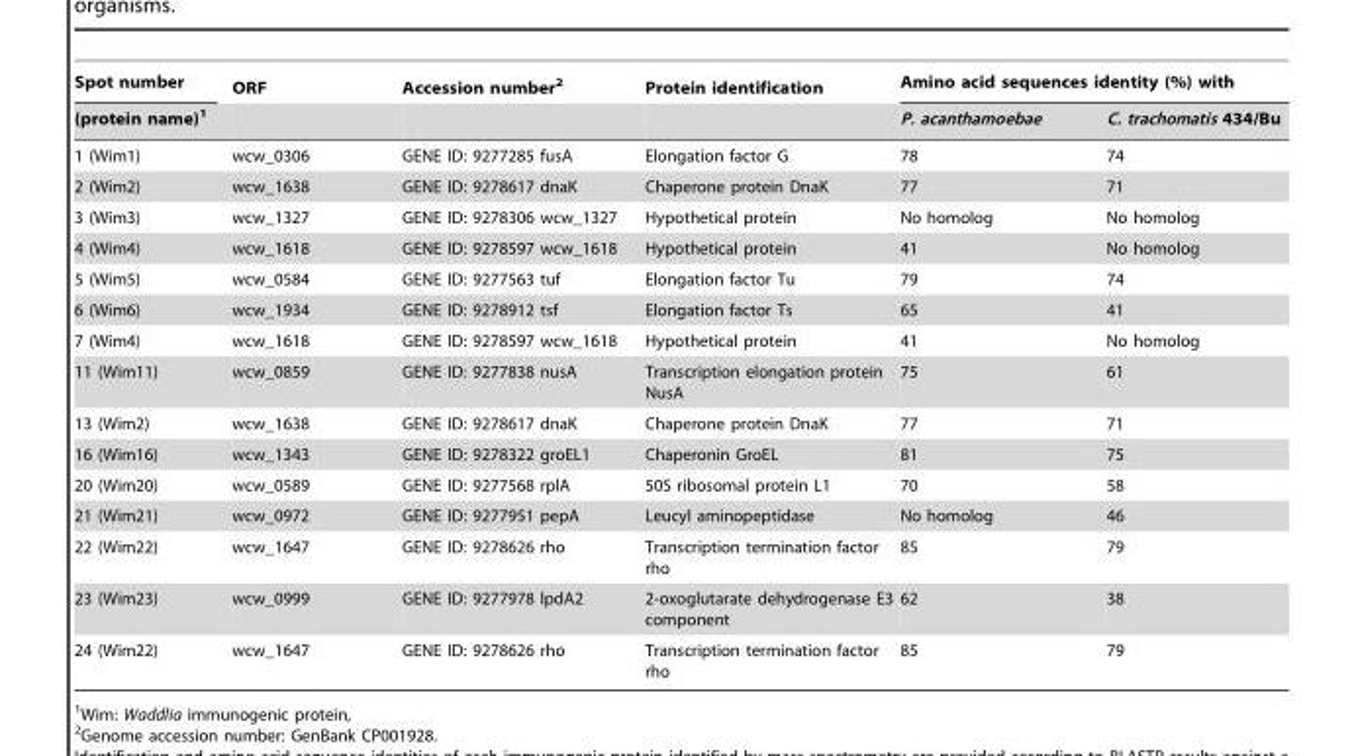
<table><thead><tr><td rowspan="2">Spot number (protein name)<sup>1</sup></td><td rowspan="2">ORF</td><td rowspan="2">Accession number<sup>2</sup></td><td rowspan="2">Protein identification</td><td colspan="2">Amino acid sequences identity (%) with</td></tr><tr><td>P. acanthamoebae</td><td>C. trachomatis 434/Bu</td></tr></thead><tbody><tr><td>1 (Wim1)</td><td>wcw_0306</td><td>GENE ID: 9277285 fusA</td><td>Elongation factor G</td><td>78</td><td>74</td></tr><tr><td>2 (Wim2)</td><td>wcw_1638</td><td>GENE ID: 9278617 dnaK</td><td>Chaperone protein DnaK</td><td>77</td><td>71</td></tr><tr><td>3 (Wim3)</td><td>wcw_1327</td><td>GENE ID: 9278306 wcw_1327</td><td>Hypothetical protein</td><td>No homolog</td><td>No homolog</td></tr><tr><td>4 (Wim4)</td><td>wcw_1618</td><td>GENE ID: 9278597 wcw_1618</td><td>Hypothetical protein</td><td>41</td><td>No homolog</td></tr><tr><td>5 (Wim5)</td><td>wcw_0584</td><td>GENE ID: 9277563 tuf</td><td>Elongation factor Tu</td><td>79</td><td>74</td></tr><tr><td>6 (Wim6)</td><td>wcw_1934</td><td>GENE ID: 9278912 tsf</td><td>Elongation factor Ts</td><td>65</td><td>41</td></tr><tr><td>7 (Wim4)</td><td>wcw_1618</td><td>GENE ID: 9278597 wcw_1618</td><td>Hypothetical protein</td><td>41</td><td>No homolog</td></tr><tr><td>11 (Wim11)</td><td>wcw_0859</td><td>GENE ID: 9277838 nusA</td><td>Transcription elongation protein NusA</td><td>75</td><td>61</td></tr><tr><td>13 (Wim2)</td><td>wcw_1638</td><td>GENE ID: 9278617 dnaK</td><td>Chaperone protein DnaK</td><td>77</td><td>71</td></tr><tr><td>16 (Wim16)</td><td>wcw_1343</td><td>GENE ID: 9278322 groEL1</td><td>Chaperonin GroEL</td><td>81</td><td>75</td></tr><tr><td>20 (Wim20)</td><td>wcw_0589</td><td>GENE ID: 9277568 rplA</td><td>50S ribosomal protein L1</td><td>70</td><td>58</td></tr><tr><td>21 (Wim21)</td><td>wcw_0972</td><td>GENE ID: 9277951 pepA</td><td>Leucyl aminopeptidase</td><td>No homolog</td><td>46</td></tr><tr><td>22 (Wim22)</td><td>wcw_1647</td><td>GENE ID: 9278626 rho</td><td>Transcription termination factor rho</td><td>85</td><td>79</td></tr><tr><td>23 (Wim23)</td><td>wcw_0999</td><td>GENE ID: 9277978 lpdA2</td><td>2-oxoglutarate dehydrogenase E3 component</td><td>62</td><td>38</td></tr><tr><td>24 (Wim22)</td><td>wcw_1647</td><td>GENE ID: 9278626 rho</td><td>Transcription termination factor rho</td><td>85</td><td>79</td></tr></tbody></table>